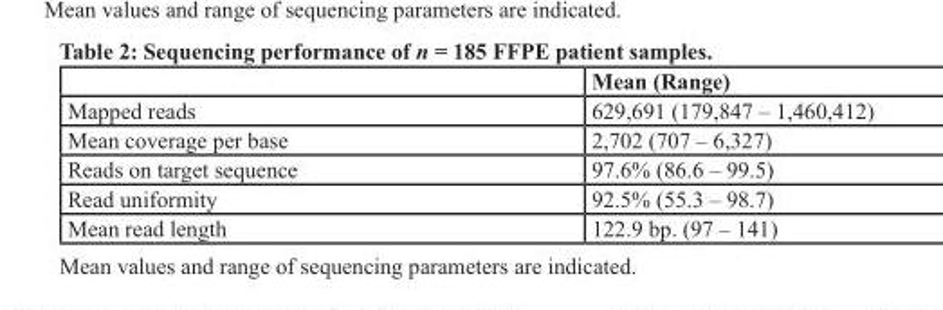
<table><thead><tr><td></td><td>Mean (Range)</td></tr></thead><tbody><tr><td>Mapped reads</td><td>629,691 (179,847 – 1,460,412)</td></tr><tr><td>Mean coverage per base</td><td>2,702 (707 – 6,327)</td></tr><tr><td>Reads on target sequence</td><td>97.6% (86.6 – 99.5)</td></tr><tr><td>Read uniformity</td><td>92.5% (55.3 – 98.7)</td></tr><tr><td>Mean read length</td><td>122.9 bp. (97 – 141)</td></tr></tbody></table>